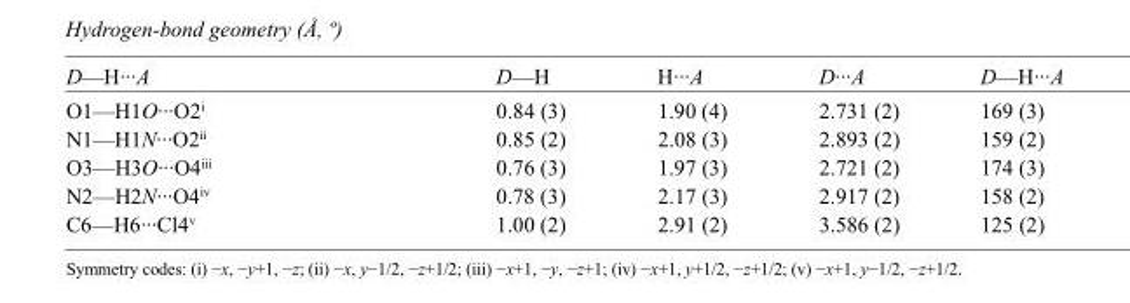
<table><tbody><tr><td>D—H···A</td><td>D—H</td><td>H···A</td><td>D···A</td><td>D—H···A</td></tr><tr><td>O1—H1O···O2<sup>i</sup></td><td>0.84 (3)</td><td>1.90 (4)</td><td>2.731 (2)</td><td>169 (3)</td></tr><tr><td>N1—H1N···O2<sup>ii</sup></td><td>0.85 (2)</td><td>2.08 (3)</td><td>2.893 (2)</td><td>159 (2)</td></tr><tr><td>O3—H3O···O4<sup>iii</sup></td><td>0.76 (3)</td><td>1.97 (3)</td><td>2.721 (2)</td><td>174 (3)</td></tr><tr><td>N2—H2N···O4<sup>iv</sup></td><td>0.78 (3)</td><td>2.17 (3)</td><td>2.917 (2)</td><td>158 (2)</td></tr><tr><td>C6—H6···Cl4<sup>v</sup></td><td>1.00 (2)</td><td>2.91 (2)</td><td>3.586 (2)</td><td>125 (2)</td></tr></tbody></table>